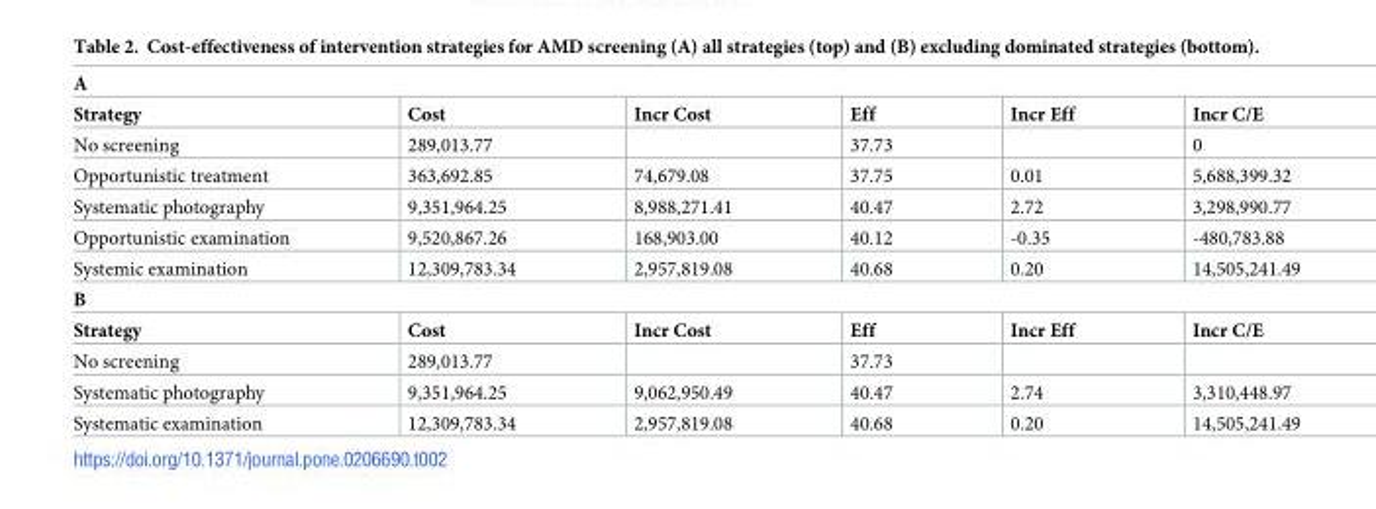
<table><tbody><tr><td colspan="6">A</td></tr><tr><td>Strategy</td><td>Cost</td><td>Incr Cost</td><td>Eff</td><td>Incr Eff</td><td>Incr C/E</td></tr><tr><td>No screening</td><td>289,013.77</td><td></td><td>37.73</td><td></td><td>0</td></tr><tr><td>Opportunistic treatment</td><td>363,692.85</td><td>74,679.08</td><td>37.75</td><td>0.01</td><td>5,688,399.32</td></tr><tr><td>Systematic photography</td><td>9,351,964.25</td><td>8,988,271.41</td><td>40.47</td><td>2.72</td><td>3,298,990.77</td></tr><tr><td>Opportunistic examination</td><td>9,520,867.26</td><td>168,903.00</td><td>40.12</td><td>-0.35</td><td>-480,783.88</td></tr><tr><td>Systemic examination</td><td>12,309,783.34</td><td>2,957,819.08</td><td>40.68</td><td>0.20</td><td>14,505,241.49</td></tr><tr><td colspan="6">B</td></tr><tr><td>Strategy</td><td>Cost</td><td>Incr Cost</td><td>Eff</td><td>Incr Eff</td><td>Incr C/E</td></tr><tr><td>No screening</td><td>289,013.77</td><td></td><td>37.73</td><td></td><td></td></tr><tr><td>Systematic photography</td><td>9,351,964.25</td><td>9,062,950.49</td><td>40.47</td><td>2.74</td><td>3,310,448.97</td></tr><tr><td>Systematic examination</td><td>12,309,783.34</td><td>2,957,819.08</td><td>40.68</td><td>0.20</td><td>14,505,241.49</td></tr></tbody></table>